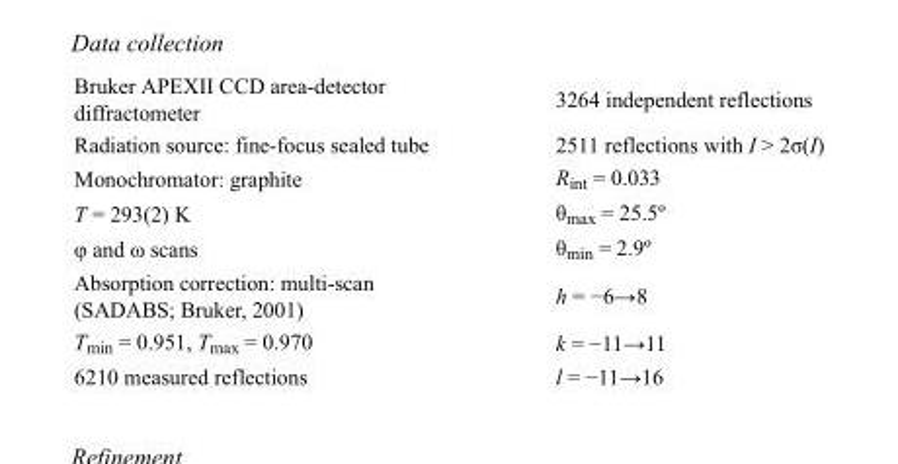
<table><tbody><tr><td>Bruker APEXII CCD area-detector diffractometer</td><td>3264 independent reflections</td></tr><tr><td>Radiation source: fine-focus sealed tube</td><td>2511 reflections with I &gt; 2σ(I)</td></tr><tr><td>Monochromator: graphite</td><td>Rint = 0.033</td></tr><tr><td>T = 293(2) K</td><td>θmax = 25.5º</td></tr><tr><td>φ and ω scans</td><td>θmin = 2.9º</td></tr><tr><td>Absorption correction: multi-scan (SADABS; Bruker, 2001)</td><td>h = −6→8</td></tr><tr><td>Tmin = 0.951, Tmax = 0.970</td><td>k = −11→11</td></tr><tr><td>6210 measured reflections</td><td>l = −11→16</td></tr></tbody></table>